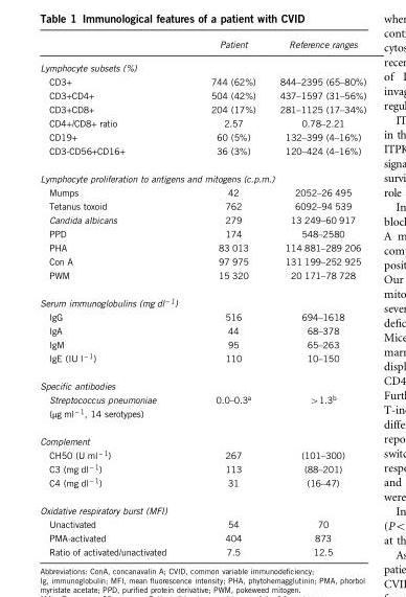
<table><thead><tr><td></td><td>Patient</td><td>Reference ranges</td></tr></thead><tbody><tr><td colspan="3">Lymphocyte subsets (%)</td></tr><tr><td>CD3+</td><td>744 (62%)</td><td>844–2395 (65–80%)</td></tr><tr><td>CD3+CD4+</td><td>504 (42%)</td><td>437–1597 (31–56%)</td></tr><tr><td>CD3+CD8+</td><td>204 (17%)</td><td>281–1125 (17–34%)</td></tr><tr><td>CD4+/CD8+ ratio</td><td>2.57</td><td>0.78–2.21</td></tr><tr><td>CD19+</td><td>60 (5%)</td><td>132–399 (4–16%)</td></tr><tr><td>CD3-CD56+CD16+</td><td>36 (3%)</td><td>120–424 (4–16%)</td></tr><tr><td colspan="3">Lymphocyte proliferation to antigens and mitogens (c.p.m.)</td></tr><tr><td>Mumps</td><td>42</td><td>2052–26 495</td></tr><tr><td>Tetanus toxoid</td><td>762</td><td>6092–94 539</td></tr><tr><td>Candida albicans</td><td>279</td><td>13 249–60 917</td></tr><tr><td>PPD</td><td>174</td><td>548–2580</td></tr><tr><td>PHA</td><td>83 013</td><td>114 881–289 206</td></tr><tr><td>Con A</td><td>97 975</td><td>131 199–252 925</td></tr><tr><td>PWM</td><td>15 320</td><td>20 171–78 728</td></tr><tr><td colspan="3">Serum immunoglobulins (mg dl<sup>− 1</sup>)</td></tr><tr><td>IgG</td><td>516</td><td>694–1618</td></tr><tr><td>IgA</td><td>44</td><td>68–378</td></tr><tr><td>IgM</td><td>95</td><td>65–263</td></tr><tr><td>IgE (IU l<sup>− 1</sup>)</td><td>110</td><td>10–150</td></tr><tr><td colspan="3">Specific antibodies</td></tr><tr><td>Streptococcus pneumoniae (μg ml<sup>− 1</sup>, 14 serotypes)</td><td>0.0–0.3<sup>a</sup></td><td>&gt;1.3<sup>b</sup></td></tr><tr><td colspan="3">Complement</td></tr><tr><td>CH50 (U ml<sup>− 1</sup>)</td><td>267</td><td>(101–300)</td></tr><tr><td>C3 (mg dl<sup>− 1</sup>)</td><td>113</td><td>(88–201)</td></tr><tr><td>C4 (mg dl<sup>− 1</sup>)</td><td>31</td><td>(16–47)</td></tr><tr><td colspan="3">Oxidative respiratory burst (MFI)</td></tr><tr><td>Unactivated</td><td>54</td><td>70</td></tr><tr><td>PMA-activated</td><td>404</td><td>873</td></tr><tr><td>Ratio of activated/unactivated</td><td>7.5</td><td>12.5</td></tr></tbody></table>